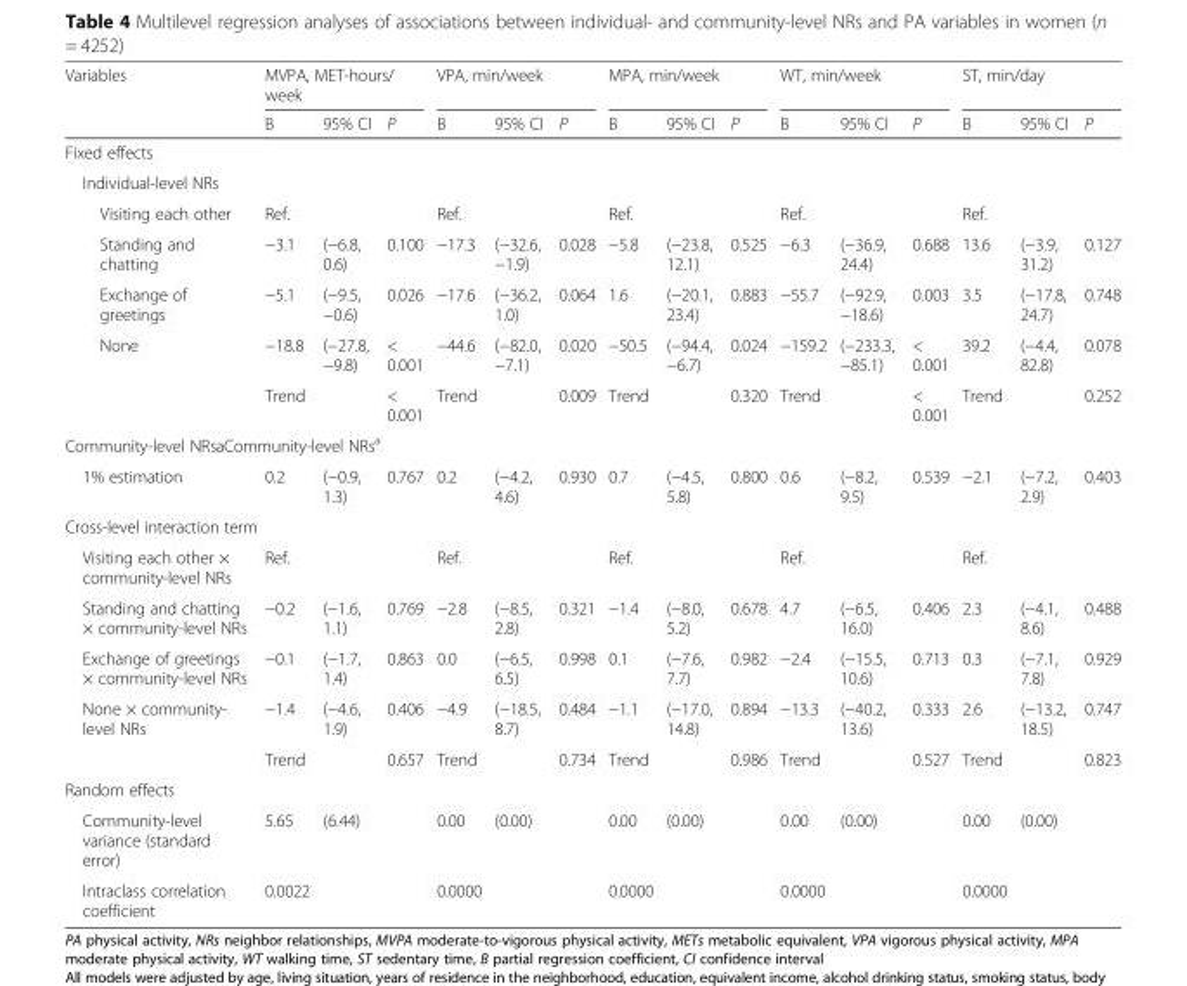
<table><thead><tr><td rowspan="2">Variables</td><td colspan="3">MVPA, MET-hours/ week</td><td colspan="3">VPA, min/week</td><td colspan="3">MPA, min/week</td><td colspan="3">WT, min/week</td><td colspan="3">ST, min/day</td></tr><tr><td>B</td><td>95% CI</td><td>P</td><td>B</td><td>95% CI</td><td>P</td><td>B</td><td>95% CI</td><td>P</td><td>B</td><td>95% CI</td><td>P</td><td>B</td><td>95% CI</td><td>P</td></tr></thead><tbody><tr><td colspan="16">Fixed effects</td></tr><tr><td colspan="16">Individual-level NRs</td></tr><tr><td>Visiting each other</td><td>Ref.</td><td></td><td></td><td>Ref.</td><td></td><td></td><td>Ref.</td><td></td><td></td><td>Ref.</td><td></td><td></td><td>Ref.</td><td></td><td></td></tr><tr><td>Standing and chatting</td><td>−3.1</td><td>(−6.8, 0.6)</td><td>0.100</td><td>−17.3</td><td>(−32.6, −1.9)</td><td>0.028</td><td>−5.8</td><td>(−23.8, 12.1)</td><td>0.525</td><td>−6.3</td><td>(−36.9, 24.4)</td><td>0.688</td><td>13.6</td><td>(−3.9, 31.2)</td><td>0.127</td></tr><tr><td>Exchange of greetings</td><td>−5.1</td><td>(−9.5, −0.6)</td><td>0.026</td><td>−17.6</td><td>(−36.2, 1.0)</td><td>0.064</td><td>1.6</td><td>(−20.1, 23.4)</td><td>0.883</td><td>−55.7</td><td>(−92.9, −18.6)</td><td>0.003</td><td>3.5</td><td>(−17.8, 24.7)</td><td>0.748</td></tr><tr><td rowspan="2">None</td><td>−18.8</td><td>(−27.8, −9.8)</td><td>&lt; 0.001</td><td>−44.6</td><td>(−82.0, −7.1)</td><td>0.020</td><td>−50.5</td><td>(−94.4, −6.7)</td><td>0.024</td><td>−159.2</td><td>(−233.3, −85.1)</td><td>&lt; 0.001</td><td>39.2</td><td>(−4.4, 82.8)</td><td>0.078</td></tr><tr><td colspan="2">Trend</td><td>&lt; 0.001</td><td colspan="2">Trend</td><td>0.009</td><td colspan="2">Trend</td><td>0.320</td><td colspan="2">Trend</td><td>&lt; 0.001</td><td colspan="2">Trend</td><td>0.252</td></tr><tr><td colspan="16">Community-level NRsaCommunity-level NRs<sup>a</sup></td></tr><tr><td>1% estimation</td><td>0.2</td><td>(−0.9, 1.3)</td><td>0.767</td><td>0.2</td><td>(−4.2, 4.6)</td><td>0.930</td><td>0.7</td><td>(−4.5, 5.8)</td><td>0.800</td><td>0.6</td><td>(−8.2, 9.5)</td><td>0.539</td><td>−2.1</td><td>(−7.2, 2.9)</td><td>0.403</td></tr><tr><td colspan="16">Cross-level interaction term</td></tr><tr><td>Visiting each other × community-level NRs</td><td>Ref.</td><td></td><td></td><td>Ref.</td><td></td><td></td><td>Ref.</td><td></td><td></td><td>Ref.</td><td></td><td></td><td>Ref.</td><td></td><td></td></tr><tr><td>Standing and chatting × community-level NRs</td><td>−0.2</td><td>(−1.6, 1.1)</td><td>0.769</td><td>−2.8</td><td>(−8.5, 2.8)</td><td>0.321</td><td>−1.4</td><td>(−8.0, 5.2)</td><td>0.678</td><td>4.7</td><td>(−6.5, 16.0)</td><td>0.406</td><td>2.3</td><td>(−4.1, 8.6)</td><td>0.488</td></tr><tr><td>Exchange of greetings × community-level NRs</td><td>−0.1</td><td>(−1.7, 1.4)</td><td>0.863</td><td>0.0</td><td>(−6.5, 6.5)</td><td>0.998</td><td>0.1</td><td>(−7.6, 7.7)</td><td>0.982</td><td>−2.4</td><td>(−15.5, 10.6)</td><td>0.713</td><td>0.3</td><td>(−7.1, 7.8)</td><td>0.929</td></tr><tr><td rowspan="2">None × community- level NRs</td><td>−1.4</td><td>(−4.6, 1.9)</td><td>0.406</td><td>−4.9</td><td>(−18.5, 8.7)</td><td>0.484</td><td>−1.1</td><td>(−17.0, 14.8)</td><td>0.894</td><td>−13.3</td><td>(−40.2, 13.6)</td><td>0.333</td><td>2.6</td><td>(−13.2, 18.5)</td><td>0.747</td></tr><tr><td colspan="2">Trend</td><td>0.657</td><td colspan="2">Trend</td><td>0.734</td><td colspan="2">Trend</td><td>0.986</td><td colspan="2">Trend</td><td>0.527</td><td colspan="2">Trend</td><td>0.823</td></tr><tr><td colspan="16">Random effects</td></tr><tr><td>Community-level variance (standard error)</td><td>5.65</td><td>(6.44)</td><td></td><td>0.00</td><td>(0.00)</td><td></td><td>0.00</td><td>(0.00)</td><td></td><td>0.00</td><td>(0.00)</td><td></td><td>0.00</td><td>(0.00)</td><td></td></tr><tr><td>Intraclass correlation coefficient</td><td>0.0022</td><td></td><td></td><td>0.0000</td><td></td><td></td><td>0.0000</td><td></td><td></td><td>0.0000</td><td></td><td></td><td>0.0000</td><td></td><td></td></tr></tbody></table>